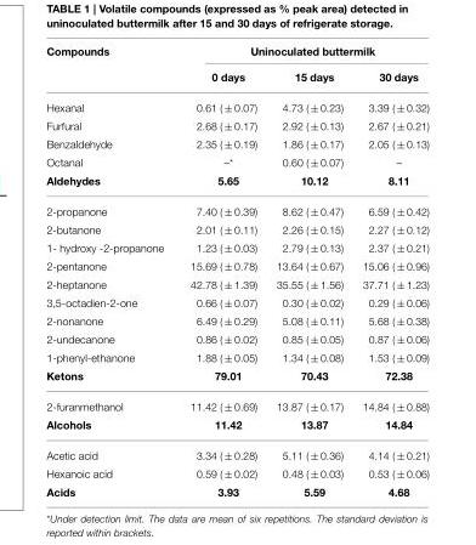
<table><thead><tr><td rowspan="2">Compounds</td><td colspan="3">Uninoculated buttermilk</td></tr><tr><td>0 days</td><td>15 days</td><td>30 days</td></tr></thead><tbody><tr><td>Hexanal</td><td>0.61 ( ± 0.07)</td><td>4.73 ( ± 0.23)</td><td>3.39 ( ± 0.32)</td></tr><tr><td>Furfural</td><td>2.68 ( ± 0.17)</td><td>2.92 ( ± 0.13)</td><td>2.67 ( ± 0.21)</td></tr><tr><td>Benzaldehyde</td><td>2.35 ( ± 0.19)</td><td>1.86 ( ± 0.17)</td><td>2.05 ( ± 0.13)</td></tr><tr><td>Octanal</td><td>–*</td><td>0.60 ( ± 0.07)</td><td>–</td></tr><tr><td>Aldehydes</td><td>5.65</td><td>10.12</td><td>8.11</td></tr><tr><td>2-propanone</td><td>7.40 ( ± 0.39)</td><td>8.62 ( ± 0.47)</td><td>6.59 ( ± 0.42)</td></tr><tr><td>2-butanone</td><td>2.01 ( ± 0.11)</td><td>2.26 ( ± 0.15)</td><td>2.27 ( ± 0.12)</td></tr><tr><td>1- hydroxy -2-propanone</td><td>1.23 ( ± 0.03)</td><td>2.79 ( ± 0.13)</td><td>2.37 ( ± 0.21)</td></tr><tr><td>2-pentanone</td><td>15.69 ( ± 0.78)</td><td>13.64 ( ± 0.67)</td><td>15.06 ( ± 0.96)</td></tr><tr><td>2-heptanone</td><td>42.78 ( ± 1.39)</td><td>35.55 ( ± 1.56)</td><td>37.71 ( ± 1.23)</td></tr><tr><td>3,5-octadien-2-one</td><td>0.66 ( ± 0.07)</td><td>0.30 ( ± 0.02)</td><td>0.29 ( ± 0.06)</td></tr><tr><td>2-nonanone</td><td>6.49 ( ± 0.29)</td><td>5.08 ( ± 0.11)</td><td>5.68 ( ± 0.38)</td></tr><tr><td>2-undecanone</td><td>0.86 ( ± 0.02)</td><td>0.85 ( ± 0.05)</td><td>0.87 ( ± 0.06)</td></tr><tr><td>1-phenyl-ethanone</td><td>1.88 ( ± 0.05)</td><td>1.34 ( ± 0.08)</td><td>1.53 ( ± 0.09)</td></tr><tr><td>Ketons</td><td>79.01</td><td>70.43</td><td>72.38</td></tr><tr><td>2-furanmethanol</td><td>11.42 ( ± 0.69)</td><td>13.87 ( ± 0.17)</td><td>14.84 ( ± 0.88)</td></tr><tr><td>Alcohols</td><td>11.42</td><td>13.87</td><td>14.84</td></tr><tr><td>Acetic acid</td><td>3.34 ( ± 0.28)</td><td>5.11 ( ± 0.36)</td><td>4.14 ( ± 0.21)</td></tr><tr><td>Hexanoic acid</td><td>0.59 ( ± 0.02)</td><td>0.48 ( ± 0.03)</td><td>0.53 ( ± 0.06)</td></tr><tr><td>Acids</td><td>3.93</td><td>5.59</td><td>4.68</td></tr></tbody></table>